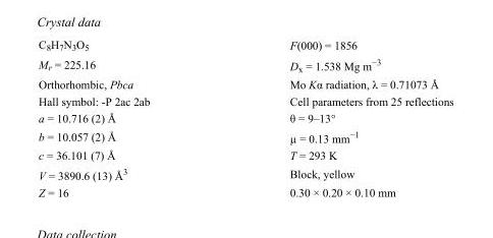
<table><tbody><tr><td>C<sub>8</sub>H<sub>7</sub>N<sub>3</sub>O<sub>5</sub></td><td>F(000) = 1856</td></tr><tr><td>M<sub>r</sub> = 225.16</td><td>D<sub>x</sub> = 1.538 Mg m<sup>−3</sup></td></tr><tr><td>Orthorhombic, Pbca</td><td>Mo Kα radiation, λ = 0.71073 Å</td></tr><tr><td>Hall symbol: -P 2ac 2ab</td><td>Cell parameters from 25 reflections</td></tr><tr><td>a = 10.716 (2) Å</td><td>θ = 9–13°</td></tr><tr><td>b = 10.057 (2) Å</td><td>µ = 0.13 mm<sup>−1</sup></td></tr><tr><td>c = 36.101 (7) Å</td><td>T = 293 K</td></tr><tr><td>V = 3890.6 (13) Å<sup>3</sup></td><td>Block, yellow</td></tr><tr><td>Z = 16</td><td>0.30 × 0.20 × 0.10 mm</td></tr></tbody></table>